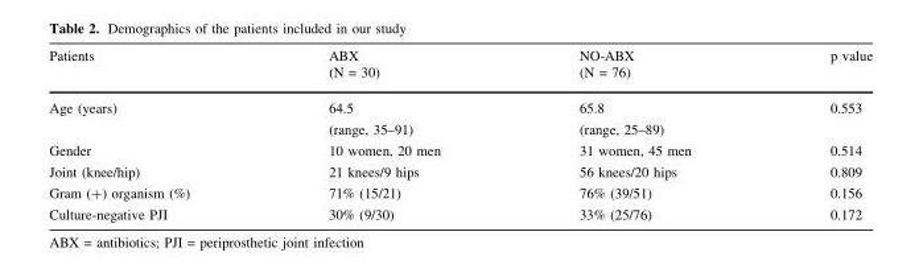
<table><thead><tr><td>Patients</td><td>ABX (N = 30)</td><td>NO-ABX (N = 76)</td><td>p value</td></tr></thead><tbody><tr><td>Age (years)</td><td>64.5 (range, 35–91)</td><td>65.8 (range, 25–89)</td><td>0.553</td></tr><tr><td>Gender</td><td>10 women, 20 men</td><td>31 women, 45 men</td><td>0.514</td></tr><tr><td>Joint (knee/hip)</td><td>21 knees/9 hips</td><td>56 knees/20 hips</td><td>0.809</td></tr><tr><td>Gram (+) organism (%)</td><td>71% (15/21)</td><td>76% (39/51)</td><td>0.156</td></tr><tr><td>Culture-negative PJI</td><td>30% (9/30)</td><td>33% (25/76)</td><td>0.172</td></tr></tbody></table>